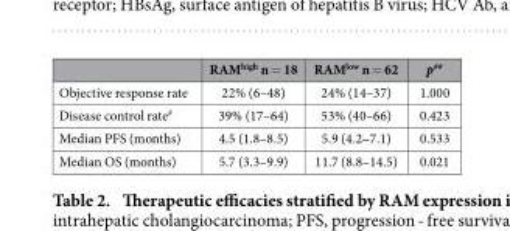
<table><thead><tr><td></td><td>RAM<sup>high</sup> n = 18</td><td>RAM<sup>low</sup> n = 62</td><td>p##</td></tr></thead><tbody><tr><td>Objective response rate</td><td>22% (6–48)</td><td>24% (14–37)</td><td>1.000</td></tr><tr><td>Disease control rate#</td><td>39% (17–64)</td><td>53% (40–66)</td><td>0.423</td></tr><tr><td>Median PFS (months)</td><td>4.5 (1.8–8.5)</td><td>5.9 (4.2‒ 7.1)</td><td>0.533</td></tr><tr><td>Median OS (months)</td><td>5.7 (3.3–9.9)</td><td>11.7 (8.8–14.5)</td><td>0.021</td></tr></tbody></table>